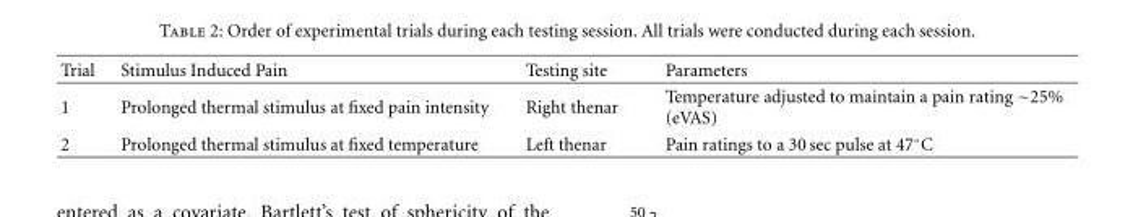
<table><thead><tr><td>Trial</td><td>Stimulus Induced Pain</td><td>Testing site</td><td>Parameters</td></tr></thead><tbody><tr><td>1</td><td>Prolonged thermal stimulus at fixed pain intensity</td><td>Right thenar</td><td>Temperature adjusted to maintain a pain rating ∼25% (eVAS)</td></tr><tr><td>2</td><td>Prolonged thermal stimulus at fixed temperature</td><td>Left thenar</td><td>Pain ratings to a 30 sec pulse at 47◦C</td></tr></tbody></table>